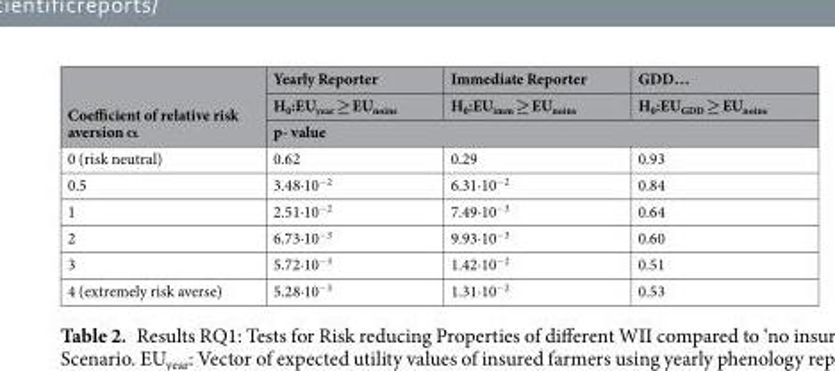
<table><thead><tr><td rowspan="3">Coefficient of relative risk aversion α</td><td rowspan="2">Yearly Reporter H<sub>0</sub>:EU<sub>year</sub> ≥ EU<sub>noins</sub></td><td rowspan="2">Immediate Reporter H<sub>0</sub>:EU<sub>imm</sub> ≥ EU<sub>noins</sub></td><td rowspan="2">GDD… H<sub>0</sub>:EU<sub>GDD</sub> ≥ EU<sub>noins</sub></td></tr><tr></tr><tr><td colspan="3">p- value</td></tr></thead><tbody><tr><td>0 (risk neutral)</td><td>0.62</td><td>0.29</td><td>0.93</td></tr><tr><td>0.5</td><td>3.48·10<sup>−2</sup></td><td>6.31·10<sup>−2</sup></td><td>0.84</td></tr><tr><td>1</td><td>2.51·10<sup>−2</sup></td><td>7.49·10<sup>−3</sup></td><td>0.64</td></tr><tr><td>2</td><td>6.73·10<sup>−3</sup></td><td>9.93·10<sup>−3</sup></td><td>0.60</td></tr><tr><td>3</td><td>5.72·10<sup>−3</sup></td><td>1.42·10<sup>−2</sup></td><td>0.51</td></tr><tr><td>4 (extremely risk averse)</td><td>5.28·10<sup>−3</sup></td><td>1.31·10<sup>−2</sup></td><td>0.53</td></tr></tbody></table>